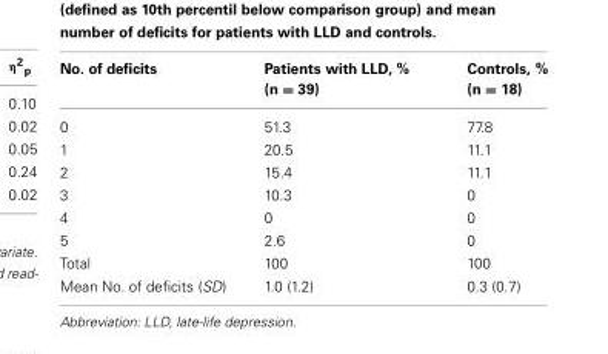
<table><thead><tr><td>No. of deficits</td><td>Patients with LLD, % (n = 39)</td><td>Controls, % (n = 18)</td></tr></thead><tbody><tr><td>0</td><td>51.3</td><td>77.8</td></tr><tr><td>1</td><td>20.5</td><td>11.1</td></tr><tr><td>2</td><td>15.4</td><td>11.1</td></tr><tr><td>3</td><td>10.3</td><td>0</td></tr><tr><td>4</td><td>0</td><td>0</td></tr><tr><td>5</td><td>2.6</td><td>0</td></tr><tr><td>Total</td><td>100</td><td>100</td></tr><tr><td>Mean No. of deficits (SD)</td><td>1.0 (1.2)</td><td>0.3 (0.7)</td></tr></tbody></table>